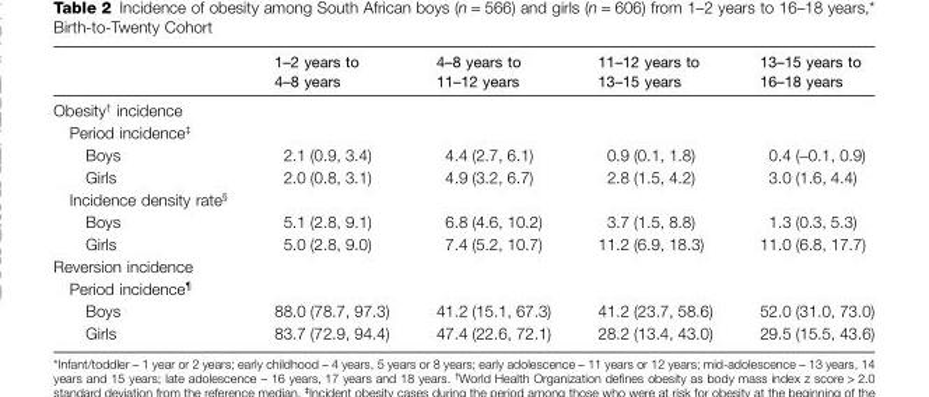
<table><thead><tr><td></td><td>1–2 years to 4–8 years</td><td>4–8 years to 11–12 years</td><td>11–12 years to 13–15 years</td><td>13–15 years to 16–18 years</td></tr></thead><tbody><tr><td colspan="5">Obesity<sup>†</sup> incidence</td></tr><tr><td colspan="5">Period incidence<sup>‡</sup></td></tr><tr><td>Boys</td><td>2.1 (0.9, 3.4)</td><td>4.4 (2.7, 6.1)</td><td>0.9 (0.1, 1.8)</td><td>0.4 (−0.1, 0.9)</td></tr><tr><td>Girls</td><td>2.0 (0.8, 3.1)</td><td>4.9 (3.2, 6.7)</td><td>2.8 (1.5, 4.2)</td><td>3.0 (1.6, 4.4)</td></tr><tr><td colspan="5">Incidence density rate<sup>§</sup></td></tr><tr><td>Boys</td><td>5.1 (2.8, 9.1)</td><td>6.8 (4.6, 10.2)</td><td>3.7 (1.5, 8.8)</td><td>1.3 (0.3, 5.3)</td></tr><tr><td>Girls</td><td>5.0 (2.8, 9.0)</td><td>7.4 (5.2, 10.7)</td><td>11.2 (6.9, 18.3)</td><td>11.0 (6.8, 17.7)</td></tr><tr><td colspan="5">Reversion incidence</td></tr><tr><td colspan="5">Period incidence<sup>¶</sup></td></tr><tr><td>Boys</td><td>88.0 (78.7, 97.3)</td><td>41.2 (15.1, 67.3)</td><td>41.2 (23.7, 58.6)</td><td>52.0 (31.0, 73.0)</td></tr><tr><td>Girls</td><td>83.7 (72.9, 94.4)</td><td>47.4 (22.6, 72.1)</td><td>28.2 (13.4, 43.0)</td><td>29.5 (15.5, 43.6)</td></tr></tbody></table>